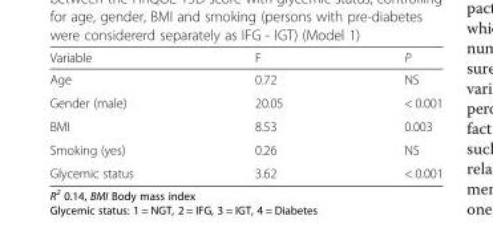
<table><thead><tr><td>Variable</td><td>F</td><td>P</td></tr></thead><tbody><tr><td>Age</td><td>0.72</td><td>NS</td></tr><tr><td>Gender (male)</td><td>20.05</td><td>&lt; 0.001</td></tr><tr><td>BMI</td><td>8.53</td><td>0.003</td></tr><tr><td>Smoking (yes)</td><td>0.26</td><td>NS</td></tr><tr><td>Glycemic status</td><td>3.62</td><td>&lt; 0.001</td></tr></tbody></table>